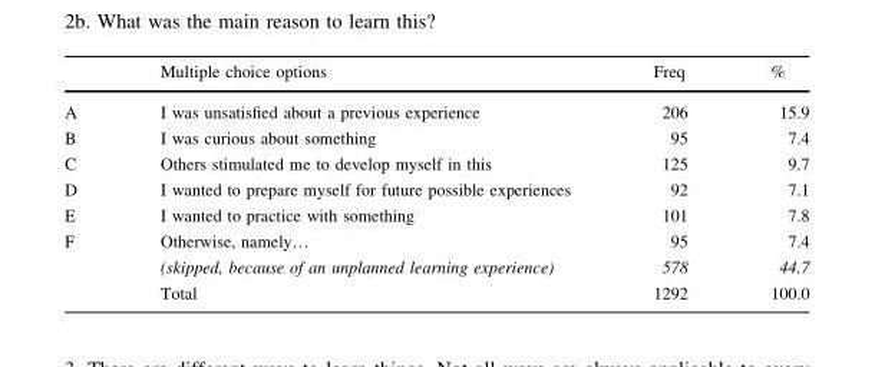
<table><thead><tr><td></td><td>Multiple choice options</td><td>Freq</td><td>%</td></tr></thead><tbody><tr><td>A</td><td>I was unsatisfied about a previous experience</td><td>206</td><td>15.9</td></tr><tr><td>B</td><td>I was curious about something</td><td>95</td><td>7.4</td></tr><tr><td>C</td><td>Others stimulated me to develop myself in this</td><td>125</td><td>9.7</td></tr><tr><td>D</td><td>I wanted to prepare myself for future possible experiences</td><td>92</td><td>7.1</td></tr><tr><td>E</td><td>I wanted to practice with something</td><td>101</td><td>7.8</td></tr><tr><td rowspan="3">F</td><td>Otherwise, namely…</td><td>95</td><td>7.4</td></tr><tr><td>(skipped, because of an unplanned learning experience)</td><td>578</td><td>44.7</td></tr><tr><td>Total</td><td>1292</td><td>100.0</td></tr></tbody></table>